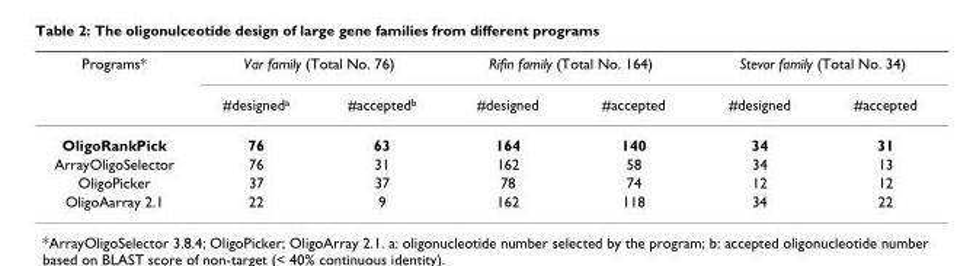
<table><thead><tr><td rowspan="2">Programs*</td><td colspan="2">Var family (Total No. 76)</td><td colspan="2">Rifin family (Total No. 164)</td><td colspan="2">Stevor family (Total No. 34)</td></tr><tr><td>#designed<sup>a</sup></td><td>#accepted<sup>b</sup></td><td>#designed</td><td>#accepted</td><td>#designed</td><td>#accepted</td></tr></thead><tbody><tr><td>OligoRankPick</td><td>76</td><td>63</td><td>164</td><td>140</td><td>34</td><td>31</td></tr><tr><td>ArrayOligoSelector</td><td>76</td><td>31</td><td>162</td><td>58</td><td>34</td><td>13</td></tr><tr><td>OligoPicker</td><td>37</td><td>37</td><td>78</td><td>74</td><td>12</td><td>12</td></tr><tr><td>OligoAarray 2.1</td><td>22</td><td>9</td><td>162</td><td>118</td><td>34</td><td>22</td></tr></tbody></table>